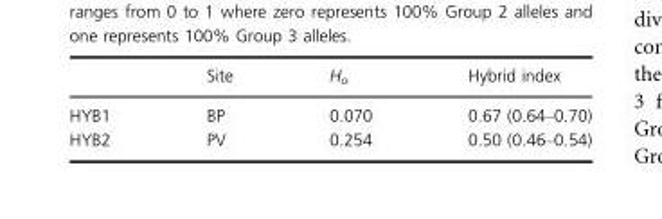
<table><thead><tr><td></td><td>Site</td><td>H<sub>o</sub></td><td>Hybrid index</td></tr></thead><tbody><tr><td>HYB1</td><td>BP</td><td>0.070</td><td>0.67 (0.64–0.70)</td></tr><tr><td>HYB2</td><td>PV</td><td>0.254</td><td>0.50 (0.46–0.54)</td></tr></tbody></table>